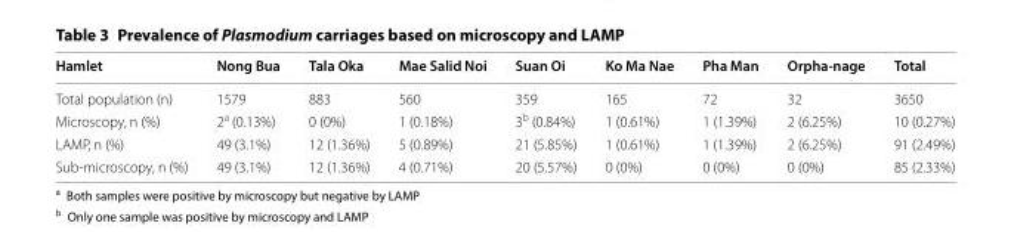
<table><thead><tr><td>Hamlet</td><td>Nong Bua</td><td>Tala Oka</td><td>Mae Salid Noi</td><td>Suan Oi</td><td>Ko Ma Nae</td><td>Pha Man</td><td>Orpha‑nage</td><td>Total</td></tr></thead><tbody><tr><td>Total population (n)</td><td>1579</td><td>883</td><td>560</td><td>359</td><td>165</td><td>72</td><td>32</td><td>3650</td></tr><tr><td>Microscopy, n (%)</td><td>2<sup>a</sup> (0.13%)</td><td>0 (0%)</td><td>1 (0.18%)</td><td>3<sup>b</sup> (0.84%)</td><td>1 (0.61%)</td><td>1 (1.39%)</td><td>2 (6.25%)</td><td>10 (0.27%)</td></tr><tr><td>LAMP, n (%)</td><td>49 (3.1%)</td><td>12 (1.36%)</td><td>5 (0.89%)</td><td>21 (5.85%)</td><td>1 (0.61%)</td><td>1 (1.39%)</td><td>2 (6.25%)</td><td>91 (2.49%)</td></tr><tr><td>Sub-microscopy, n (%)</td><td>49 (3.1%)</td><td>12 (1.36%)</td><td>4 (0.71%)</td><td>20 (5.57%)</td><td>0 (0%)</td><td>0 (0%)</td><td>0 (0%)</td><td>85 (2.33%)</td></tr></tbody></table>